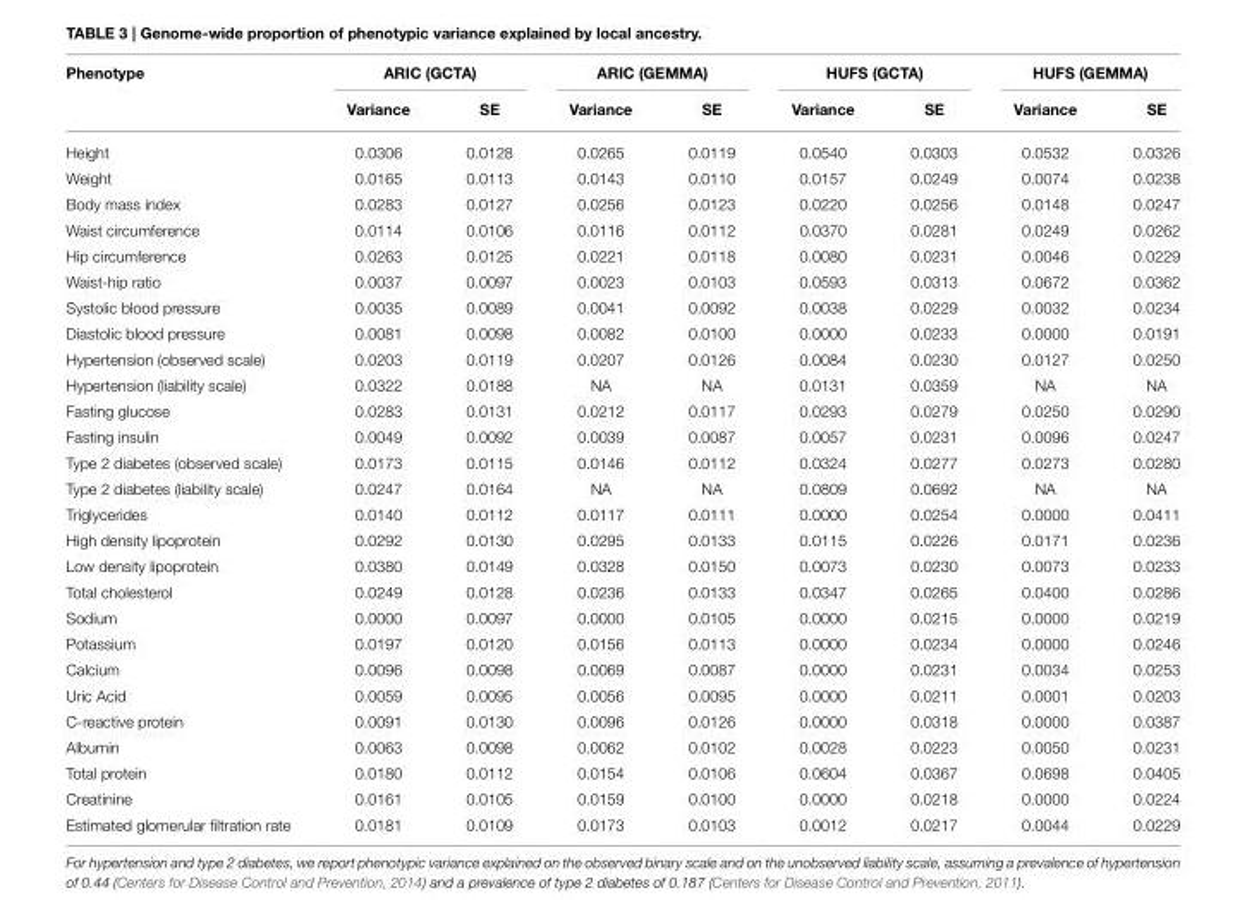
<table><thead><tr><td rowspan="2">Phenotype</td><td colspan="2">ARIC (GCTA)</td><td colspan="2">ARIC (GEMMA)</td><td colspan="2">HUFS (GCTA)</td><td colspan="2">HUFS (GEMMA)</td></tr><tr><td>Variance</td><td>SE</td><td>Variance</td><td>SE</td><td>Variance</td><td>SE</td><td>Variance</td><td>SE</td></tr></thead><tbody><tr><td>Height</td><td>0.0306</td><td>0.0128</td><td>0.0265</td><td>0.0119</td><td>0.0540</td><td>0.0303</td><td>0.0532</td><td>0.0326</td></tr><tr><td>Weight</td><td>0.0165</td><td>0.0113</td><td>0.0143</td><td>0.0110</td><td>0.0157</td><td>0.0249</td><td>0.0074</td><td>0.0238</td></tr><tr><td>Body mass index</td><td>0.0283</td><td>0.0127</td><td>0.0256</td><td>0.0123</td><td>0.0220</td><td>0.0256</td><td>0.0148</td><td>0.0247</td></tr><tr><td>Waist circumference</td><td>0.0114</td><td>0.0106</td><td>0.0116</td><td>0.0112</td><td>0.0370</td><td>0.0281</td><td>0.0249</td><td>0.0262</td></tr><tr><td>Hip circumference</td><td>0.0263</td><td>0.0125</td><td>0.0221</td><td>0.0118</td><td>0.0080</td><td>0.0231</td><td>0.0046</td><td>0.0229</td></tr><tr><td>Waist-hip ratio</td><td>0.0037</td><td>0.0097</td><td>0.0023</td><td>0.0103</td><td>0.0593</td><td>0.0313</td><td>0.0672</td><td>0.0362</td></tr><tr><td>Systolic blood pressure</td><td>0.0035</td><td>0.0089</td><td>0.0041</td><td>0.0092</td><td>0.0038</td><td>0.0229</td><td>0.0032</td><td>0.0234</td></tr><tr><td>Diastolic blood pressure</td><td>0.0081</td><td>0.0098</td><td>0.0082</td><td>0.0100</td><td>0.0000</td><td>0.0233</td><td>0.0000</td><td>0.0191</td></tr><tr><td>Hypertension (observed scale)</td><td>0.0203</td><td>0.0119</td><td>0.0207</td><td>0.0126</td><td>0.0084</td><td>0.0230</td><td>0.0127</td><td>0.0250</td></tr><tr><td>Hypertension (liability scale)</td><td>0.0322</td><td>0.0188</td><td>NA</td><td>NA</td><td>0.0131</td><td>0.0359</td><td>NA</td><td>NA</td></tr><tr><td>Fasting glucose</td><td>0.0283</td><td>0.0131</td><td>0.0212</td><td>0.0117</td><td>0.0293</td><td>0.0279</td><td>0.0250</td><td>0.0290</td></tr><tr><td>Fasting insulin</td><td>0.0049</td><td>0.0092</td><td>0.0039</td><td>0.0087</td><td>0.0057</td><td>0.0231</td><td>0.0096</td><td>0.0247</td></tr><tr><td>Type 2 diabetes (observed scale)</td><td>0.0173</td><td>0.0115</td><td>0.0146</td><td>0.0112</td><td>0.0324</td><td>0.0277</td><td>0.0273</td><td>0.0280</td></tr><tr><td>Type 2 diabetes (liability scale)</td><td>0.0247</td><td>0.0164</td><td>NA</td><td>NA</td><td>0.0809</td><td>0.0692</td><td>NA</td><td>NA</td></tr><tr><td>Triglycerides</td><td>0.0140</td><td>0.0112</td><td>0.0117</td><td>0.0111</td><td>0.0000</td><td>0.0254</td><td>0.0000</td><td>0.0411</td></tr><tr><td>High density lipoprotein</td><td>0.0292</td><td>0.0130</td><td>0.0295</td><td>0.0133</td><td>0.0115</td><td>0.0226</td><td>0.0171</td><td>0.0236</td></tr><tr><td>Low density lipoprotein</td><td>0.0380</td><td>0.0149</td><td>0.0328</td><td>0.0150</td><td>0.0073</td><td>0.0230</td><td>0.0073</td><td>0.0233</td></tr><tr><td>Total cholesterol</td><td>0.0249</td><td>0.0128</td><td>0.0236</td><td>0.0133</td><td>0.0347</td><td>0.0265</td><td>0.0400</td><td>0.0286</td></tr><tr><td>Sodium</td><td>0.0000</td><td>0.0097</td><td>0.0000</td><td>0.0105</td><td>0.0000</td><td>0.0215</td><td>0.0000</td><td>0.0219</td></tr><tr><td>Potassium</td><td>0.0197</td><td>0.0120</td><td>0.0156</td><td>0.0113</td><td>0.0000</td><td>0.0234</td><td>0.0000</td><td>0.0246</td></tr><tr><td>Calcium</td><td>0.0096</td><td>0.0098</td><td>0.0069</td><td>0.0087</td><td>0.0000</td><td>0.0231</td><td>0.0034</td><td>0.0253</td></tr><tr><td>Uric Acid</td><td>0.0059</td><td>0.0095</td><td>0.0056</td><td>0.0095</td><td>0.0000</td><td>0.0211</td><td>0.0001</td><td>0.0203</td></tr><tr><td>C-reactive protein</td><td>0.0091</td><td>0.0130</td><td>0.0096</td><td>0.0126</td><td>0.0000</td><td>0.0318</td><td>0.0000</td><td>0.0387</td></tr><tr><td>Albumin</td><td>0.0063</td><td>0.0098</td><td>0.0062</td><td>0.0102</td><td>0.0028</td><td>0.0223</td><td>0.0050</td><td>0.0231</td></tr><tr><td>Total protein</td><td>0.0180</td><td>0.0112</td><td>0.0154</td><td>0.0106</td><td>0.0604</td><td>0.0367</td><td>0.0698</td><td>0.0405</td></tr><tr><td>Creatinine</td><td>0.0161</td><td>0.0105</td><td>0.0159</td><td>0.0100</td><td>0.0000</td><td>0.0218</td><td>0.0000</td><td>0.0224</td></tr><tr><td>Estimated glomerular filtration rate</td><td>0.0181</td><td>0.0109</td><td>0.0173</td><td>0.0103</td><td>0.0012</td><td>0.0217</td><td>0.0044</td><td>0.0229</td></tr></tbody></table>